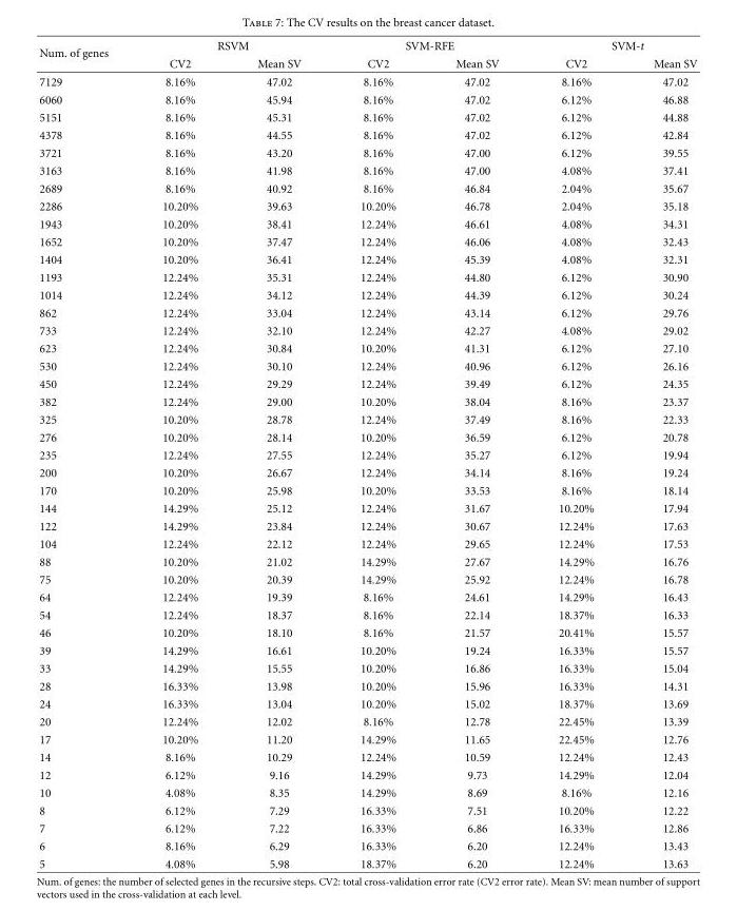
<table><thead><tr><td rowspan="2">Num. of genes</td><td colspan="2">RSVM</td><td colspan="2">SVM-RFE</td><td colspan="2">SVM-t</td></tr><tr><td>CV2</td><td>Mean SV</td><td>CV2</td><td>Mean SV</td><td>CV2</td><td>Mean SV</td></tr></thead><tbody><tr><td>7129</td><td>8.16%</td><td>47.02</td><td>8.16%</td><td>47.02</td><td>8.16%</td><td>47.02</td></tr><tr><td>6060</td><td>8.16%</td><td>45.94</td><td>8.16%</td><td>47.02</td><td>6.12%</td><td>46.88</td></tr><tr><td>5151</td><td>8.16%</td><td>45.31</td><td>8.16%</td><td>47.02</td><td>6.12%</td><td>44.88</td></tr><tr><td>4378</td><td>8.16%</td><td>44.55</td><td>8.16%</td><td>47.02</td><td>6.12%</td><td>42.84</td></tr><tr><td>3721</td><td>8.16%</td><td>43.20</td><td>8.16%</td><td>47.00</td><td>6.12%</td><td>39.55</td></tr><tr><td>3163</td><td>8.16%</td><td>41.98</td><td>8.16%</td><td>47.00</td><td>4.08%</td><td>37.41</td></tr><tr><td>2689</td><td>8.16%</td><td>40.92</td><td>8.16%</td><td>46.84</td><td>2.04%</td><td>35.67</td></tr><tr><td>2286</td><td>10.20%</td><td>39.63</td><td>10.20%</td><td>46.78</td><td>2.04%</td><td>35.18</td></tr><tr><td>1943</td><td>10.20%</td><td>38.41</td><td>12.24%</td><td>46.61</td><td>4.08%</td><td>34.31</td></tr><tr><td>1652</td><td>10.20%</td><td>37.47</td><td>12.24%</td><td>46.06</td><td>4.08%</td><td>32.43</td></tr><tr><td>1404</td><td>10.20%</td><td>36.41</td><td>12.24%</td><td>45.39</td><td>4.08%</td><td>32.31</td></tr><tr><td>1193</td><td>12.24%</td><td>35.31</td><td>12.24%</td><td>44.80</td><td>6.12%</td><td>30.90</td></tr><tr><td>1014</td><td>12.24%</td><td>34.12</td><td>12.24%</td><td>44.39</td><td>6.12%</td><td>30.24</td></tr><tr><td>862</td><td>12.24%</td><td>33.04</td><td>12.24%</td><td>43.14</td><td>6.12%</td><td>29.76</td></tr><tr><td>733</td><td>12.24%</td><td>32.10</td><td>12.24%</td><td>42.27</td><td>4.08%</td><td>29.02</td></tr><tr><td>623</td><td>12.24%</td><td>30.84</td><td>10.20%</td><td>41.31</td><td>6.12%</td><td>27.10</td></tr><tr><td>530</td><td>12.24%</td><td>30.10</td><td>12.24%</td><td>40.96</td><td>6.12%</td><td>26.16</td></tr><tr><td>450</td><td>12.24%</td><td>29.29</td><td>12.24%</td><td>39.49</td><td>6.12%</td><td>24.35</td></tr><tr><td>382</td><td>12.24%</td><td>29.00</td><td>10.20%</td><td>38.04</td><td>8.16%</td><td>23.37</td></tr><tr><td>325</td><td>10.20%</td><td>28.78</td><td>12.24%</td><td>37.49</td><td>8.16%</td><td>22.33</td></tr><tr><td>276</td><td>10.20%</td><td>28.14</td><td>10.20%</td><td>36.59</td><td>6.12%</td><td>20.78</td></tr><tr><td>235</td><td>12.24%</td><td>27.55</td><td>12.24%</td><td>35.27</td><td>6.12%</td><td>19.94</td></tr><tr><td>200</td><td>10.20%</td><td>26.67</td><td>12.24%</td><td>34.14</td><td>8.16%</td><td>19.24</td></tr><tr><td>170</td><td>10.20%</td><td>25.98</td><td>10.20%</td><td>33.53</td><td>8.16%</td><td>18.14</td></tr><tr><td>144</td><td>14.29%</td><td>25.12</td><td>12.24%</td><td>31.67</td><td>10.20%</td><td>17.94</td></tr><tr><td>122</td><td>14.29%</td><td>23.84</td><td>12.24%</td><td>30.67</td><td>12.24%</td><td>17.63</td></tr><tr><td>104</td><td>12.24%</td><td>22.12</td><td>12.24%</td><td>29.65</td><td>12.24%</td><td>17.53</td></tr><tr><td>88</td><td>10.20%</td><td>21.02</td><td>14.29%</td><td>27.67</td><td>14.29%</td><td>16.76</td></tr><tr><td>75</td><td>10.20%</td><td>20.39</td><td>14.29%</td><td>25.92</td><td>12.24%</td><td>16.78</td></tr><tr><td>64</td><td>12.24%</td><td>19.39</td><td>8.16%</td><td>24.61</td><td>14.29%</td><td>16.43</td></tr><tr><td>54</td><td>12.24%</td><td>18.37</td><td>8.16%</td><td>22.14</td><td>18.37%</td><td>16.33</td></tr><tr><td>46</td><td>10.20%</td><td>18.10</td><td>8.16%</td><td>21.57</td><td>20.41%</td><td>15.57</td></tr><tr><td>39</td><td>14.29%</td><td>16.61</td><td>10.20%</td><td>19.24</td><td>16.33%</td><td>15.57</td></tr><tr><td>33</td><td>14.29%</td><td>15.55</td><td>10.20%</td><td>16.86</td><td>16.33%</td><td>15.04</td></tr><tr><td>28</td><td>16.33%</td><td>13.98</td><td>10.20%</td><td>15.96</td><td>16.33%</td><td>14.31</td></tr><tr><td>24</td><td>16.33%</td><td>13.04</td><td>10.20%</td><td>15.02</td><td>18.37%</td><td>13.69</td></tr><tr><td>20</td><td>12.24%</td><td>12.02</td><td>8.16%</td><td>12.78</td><td>22.45%</td><td>13.39</td></tr><tr><td>17</td><td>10.20%</td><td>11.20</td><td>14.29%</td><td>11.65</td><td>22.45%</td><td>12.76</td></tr><tr><td>14</td><td>8.16%</td><td>10.29</td><td>12.24%</td><td>10.59</td><td>12.24%</td><td>12.43</td></tr><tr><td>12</td><td>6.12%</td><td>9.16</td><td>14.29%</td><td>9.73</td><td>14.29%</td><td>12.04</td></tr><tr><td>10</td><td>4.08%</td><td>8.35</td><td>14.29%</td><td>8.69</td><td>8.16%</td><td>12.16</td></tr><tr><td>8</td><td>6.12%</td><td>7.29</td><td>16.33%</td><td>7.51</td><td>10.20%</td><td>12.22</td></tr><tr><td>7</td><td>6.12%</td><td>7.22</td><td>16.33%</td><td>6.86</td><td>16.33%</td><td>12.86</td></tr><tr><td>6</td><td>8.16%</td><td>6.29</td><td>16.33%</td><td>6.20</td><td>12.24%</td><td>13.43</td></tr><tr><td>5</td><td>4.08%</td><td>5.98</td><td>18.37%</td><td>6.20</td><td>12.24%</td><td>13.63</td></tr></tbody></table>